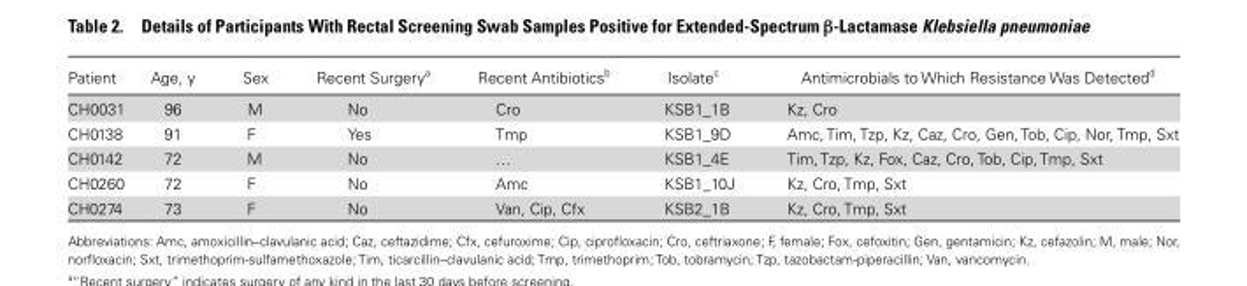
<table><thead><tr><td>Patient</td><td>Age, y</td><td>Sex</td><td>Recent Surgery<sup>a</sup></td><td>Recent Antibiotics<sup>b</sup></td><td>Isolate<sup>c</sup></td><td>Antimicrobials to Which Resistance Was Detected<sup>d</sup></td></tr></thead><tbody><tr><td>CH0031</td><td>96</td><td>M</td><td>No</td><td>Cro</td><td>KSB1_1B</td><td>Kz, Cro</td></tr><tr><td>CH0138</td><td>91</td><td>F</td><td>Yes</td><td>Tmp</td><td>KSB1_9D</td><td>Amc, Tim, Tzp, Kz, Caz, Cro, Gen, Tob, Cip, Nor, Tmp, Sxt</td></tr><tr><td>CH0142</td><td>72</td><td>M</td><td>No</td><td>…</td><td>KSB1_4E</td><td>Tim, Tzp, Kz, Fox, Caz, Cro, Tob, Cip, Tmp, Sxt</td></tr><tr><td>CH0260</td><td>72</td><td>F</td><td>No</td><td>Amc</td><td>KSB1_10J</td><td>Kz, Cro, Tmp, Sxt</td></tr><tr><td>CH0274</td><td>73</td><td>F</td><td>No</td><td>Van, Cip, Cfx</td><td>KSB2_1B</td><td>Kz, Cro, Tmp, Sxt</td></tr></tbody></table>